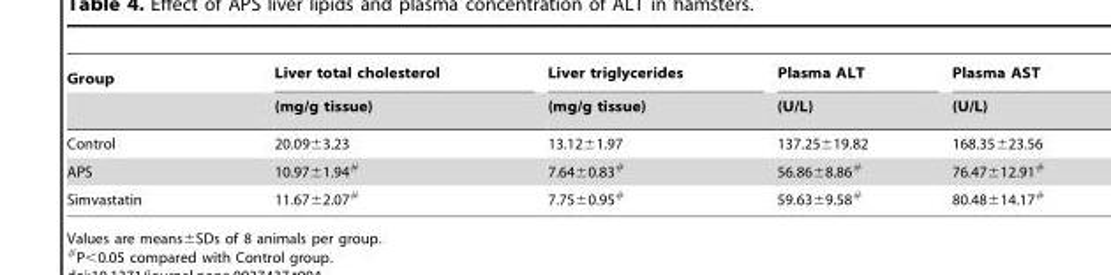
<table><thead><tr><td rowspan="2">Group</td><td rowspan="2">Liver total cholesterol (mg/g tissue)</td><td rowspan="2">Liver triglycerides (mg/g tissue)</td><td rowspan="2">Plasma ALT (U/L)</td><td rowspan="2">Plasma AST (U/L)</td></tr><tr></tr></thead><tbody><tr><td>Control</td><td>20.09±3.23</td><td>13.12±1.97</td><td>137.25±19.82</td><td>168.35±23.56</td></tr><tr><td>APS</td><td>10.97±1.94#</td><td>7.64±0.83#</td><td>56.86±8.86#</td><td>76.47±12.91#</td></tr><tr><td>Simvastatin</td><td>11.67±2.07#</td><td>7.75±0.95#</td><td>59.63±9.58#</td><td>80.48±14.17#</td></tr></tbody></table>